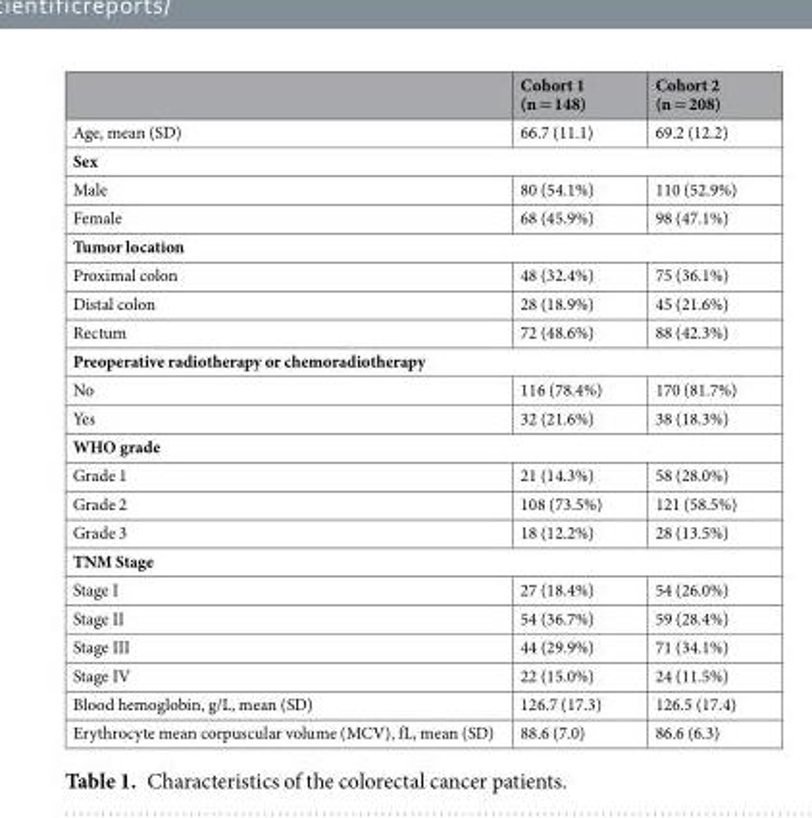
<table><thead><tr><td></td><td>Cohort 1 (n = 148)</td><td>Cohort 2 (n = 208)</td></tr></thead><tbody><tr><td>Age, mean (SD)</td><td>66.7 (11.1)</td><td>69.2 (12.2)</td></tr><tr><td colspan="3">Sex</td></tr><tr><td>Male</td><td>80 (54.1%)</td><td>110 (52.9%)</td></tr><tr><td>Female</td><td>68 (45.9%)</td><td>98 (47.1%)</td></tr><tr><td colspan="3">Tumor location</td></tr><tr><td>Proximal colon</td><td>48 (32.4%)</td><td>75 (36.1%)</td></tr><tr><td>Distal colon</td><td>28 (18.9%)</td><td>45 (21.6%)</td></tr><tr><td>Rectum</td><td>72 (48.6%)</td><td>88 (42.3%)</td></tr><tr><td colspan="3">Preoperative radiotherapy or chemoradiotherapy</td></tr><tr><td>No</td><td>116 (78.4%)</td><td>170 (81.7%)</td></tr><tr><td>Yes</td><td>32 (21.6%)</td><td>38 (18.3%)</td></tr><tr><td colspan="3">WHO grade</td></tr><tr><td>Grade 1</td><td>21 (14.3%)</td><td>58 (28.0%)</td></tr><tr><td>Grade 2</td><td>108 (73.5%)</td><td>121 (58.5%)</td></tr><tr><td>Grade 3</td><td>18 (12.2%)</td><td>28 (13.5%)</td></tr><tr><td colspan="3">TNM Stage</td></tr><tr><td>Stage I</td><td>27 (18.4%)</td><td>54 (26.0%)</td></tr><tr><td>Stage II</td><td>54 (36.7%)</td><td>59 (28.4%)</td></tr><tr><td>Stage III</td><td>44 (29.9%)</td><td>71 (34.1%)</td></tr><tr><td>Stage IV</td><td>22 (15.0%)</td><td>24 (11.5%)</td></tr><tr><td>Blood hemoglobin, g/L, mean (SD)</td><td>126.7 (17.3)</td><td>126.5 (17.4)</td></tr><tr><td>Erythrocyte mean corpuscular volume (MCV), fL, mean (SD)</td><td>88.6 (7.0)</td><td>86.6 (6.3)</td></tr></tbody></table>